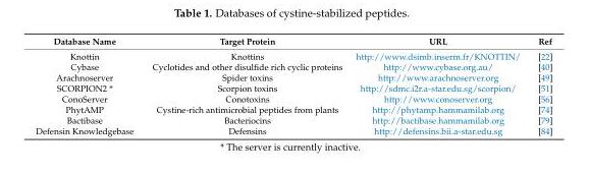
<table><thead><tr><td>Database Name</td><td>Target Protein</td><td>URL</td><td>Ref</td></tr></thead><tbody><tr><td>Knottin</td><td>Knottins</td><td>http://www.dsimb.inserm.fr/KNOTTIN/</td><td>[22]</td></tr><tr><td>Cybase</td><td>Cyclotides and other disulfide rich cyclic proteins</td><td>http://www.cybase.org.au/</td><td>[40]</td></tr><tr><td>Arachnoserver</td><td>Spider toxins</td><td>http://www.arachnoserver.org</td><td>[49]</td></tr><tr><td>SCORPION2 *</td><td>Scorpion toxins</td><td>http://sdmc.i2r.a-star.edu.sg/scorpion/</td><td>[51]</td></tr><tr><td>ConoServer</td><td>Conotoxins</td><td>http://www.conoserver.org</td><td>[56]</td></tr><tr><td>PhytAMP</td><td>Cystine-rich antimicrobial peptides from plants</td><td>http://phytamp.hammamilab.org</td><td>[74]</td></tr><tr><td>Bactibase</td><td>Bacteriocins</td><td>http://bactibase.hammamilab.org</td><td>[79]</td></tr><tr><td>Defensin Knowledgebase</td><td>Defensins</td><td>http://defensins.bii.a-star.edu.sg</td><td>[84]</td></tr></tbody></table>